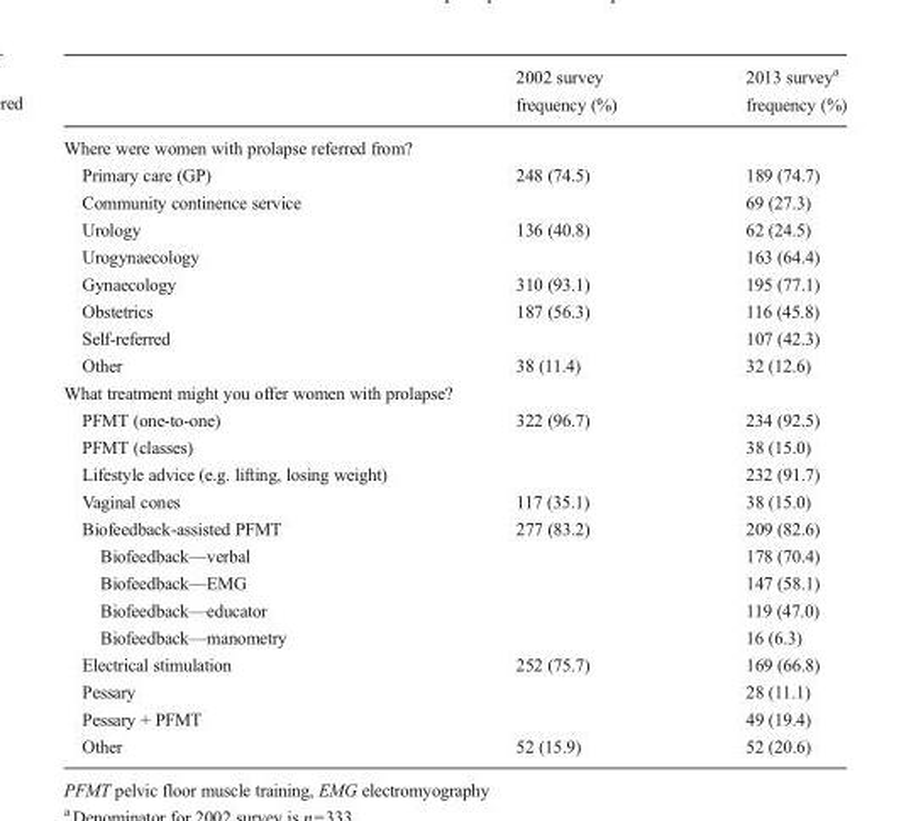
<table><thead><tr><td></td><td>2002 survey frequency (%)</td><td>2013 survey<sup>a</sup> frequency (%)</td></tr></thead><tbody><tr><td colspan="3">Where were women with prolapse referred from?</td></tr><tr><td>Primary care (GP)</td><td>248 (74.5)</td><td>189 (74.7)</td></tr><tr><td>Community continence service</td><td></td><td>69 (27.3)</td></tr><tr><td>Urology</td><td>136 (40.8)</td><td>62 (24.5)</td></tr><tr><td>Urogynaecology</td><td></td><td>163 (64.4)</td></tr><tr><td>Gynaecology</td><td>310 (93.1)</td><td>195 (77.1)</td></tr><tr><td>Obstetrics</td><td>187 (56.3)</td><td>116 (45.8)</td></tr><tr><td>Self-referred</td><td></td><td>107 (42.3)</td></tr><tr><td>Other</td><td>38 (11.4)</td><td>32 (12.6)</td></tr><tr><td colspan="3">What treatment might you offer women with prolapse?</td></tr><tr><td>PFMT (one-to-one)</td><td>322 (96.7)</td><td>234 (92.5)</td></tr><tr><td>PFMT (classes)</td><td></td><td>38 (15.0)</td></tr><tr><td>Lifestyle advice (e.g. lifting, losing weight)</td><td></td><td>232 (91.7)</td></tr><tr><td>Vaginal cones</td><td>117 (35.1)</td><td>38 (15.0)</td></tr><tr><td>Biofeedback-assisted PFMT</td><td>277 (83.2)</td><td>209 (82.6)</td></tr><tr><td>Biofeedback—verbal</td><td></td><td>178 (70.4)</td></tr><tr><td>Biofeedback—EMG</td><td></td><td>147 (58.1)</td></tr><tr><td>Biofeedback—educator</td><td></td><td>119 (47.0)</td></tr><tr><td>Biofeedback—manometry</td><td></td><td>16 (6.3)</td></tr><tr><td>Electrical stimulation</td><td>252 (75.7)</td><td>169 (66.8)</td></tr><tr><td>Pessary</td><td></td><td>28 (11.1)</td></tr><tr><td>Pessary + PFMT</td><td></td><td>49 (19.4)</td></tr><tr><td>Other</td><td>52 (15.9)</td><td>52 (20.6)</td></tr></tbody></table>